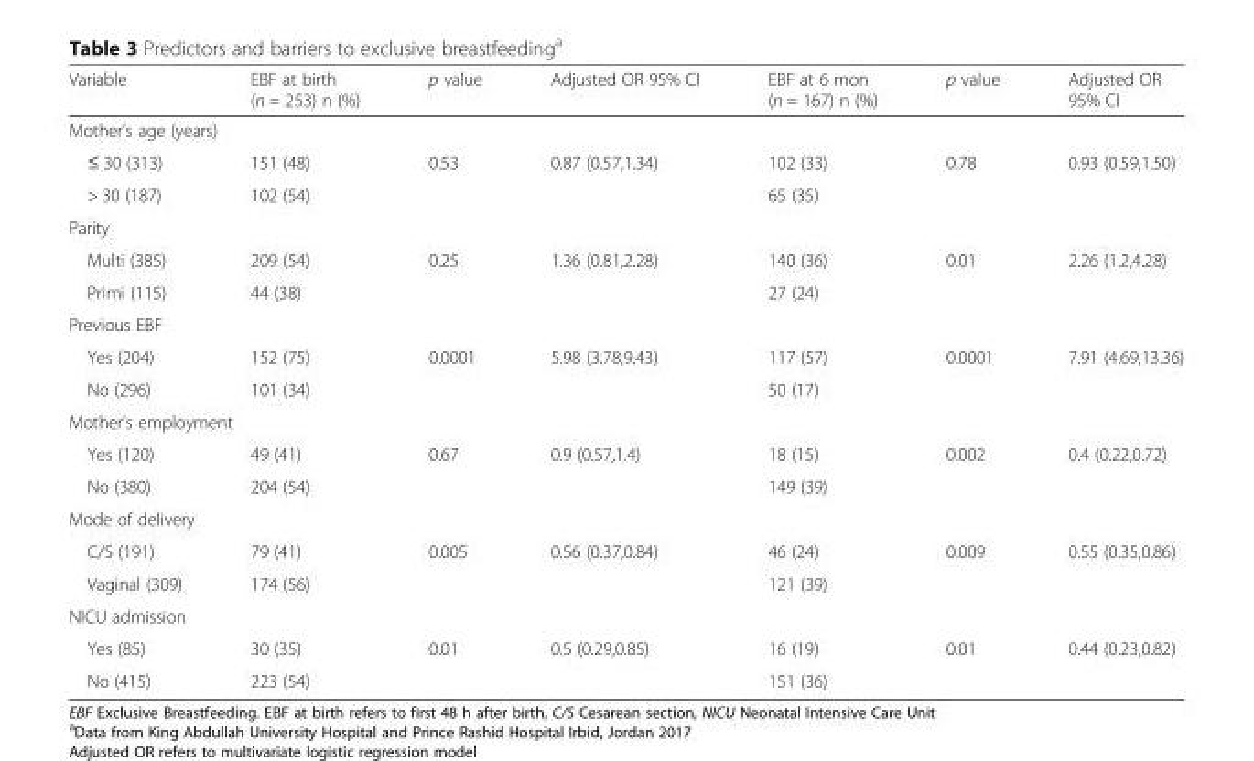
<table><thead><tr><td>Variable</td><td>EBF at birth (n = 253) n (%)</td><td>p value</td><td>Adjusted OR 95% CI</td><td>EBF at 6 mon (n = 167) n (%)</td><td>p value</td><td>Adjusted OR 95% CI</td></tr></thead><tbody><tr><td colspan="7">Mother’s age (years)</td></tr><tr><td>≤ 30 (313)</td><td>151 (48)</td><td rowspan="2">0.53</td><td rowspan="2">0.87 (0.57,1.34)</td><td>102 (33)</td><td rowspan="2">0.78</td><td rowspan="2">0.93 (0.59,1.50)</td></tr><tr><td>&gt; 30 (187)</td><td>102 (54)</td><td>65 (35)</td></tr><tr><td colspan="7">Parity</td></tr><tr><td>Multi (385)</td><td>209 (54)</td><td rowspan="2">0.25</td><td rowspan="2">1.36 (0.81,2.28)</td><td>140 (36)</td><td rowspan="2">0.01</td><td rowspan="2">2.26 (1.2,4.28)</td></tr><tr><td>Primi (115)</td><td>44 (38)</td><td>27 (24)</td></tr><tr><td colspan="7">Previous EBF</td></tr><tr><td>Yes (204)</td><td>152 (75)</td><td rowspan="2">0.0001</td><td rowspan="2">5.98 (3.78,9.43)</td><td>117 (57)</td><td rowspan="2">0.0001</td><td rowspan="2">7.91 (4.69,13.36)</td></tr><tr><td>No (296)</td><td>101 (34)</td><td>50 (17)</td></tr><tr><td colspan="7">Mother’s employment</td></tr><tr><td>Yes (120)</td><td>49 (41)</td><td rowspan="2">0.67</td><td rowspan="2">0.9 (0.57,1.4)</td><td>18 (15)</td><td rowspan="2">0.002</td><td rowspan="2">0.4 (0.22,0.72)</td></tr><tr><td>No (380)</td><td>204 (54)</td><td>149 (39)</td></tr><tr><td colspan="7">Mode of delivery</td></tr><tr><td>C/S (191)</td><td>79 (41)</td><td rowspan="2">0.005</td><td rowspan="2">0.56 (0.37,0.84)</td><td>46 (24)</td><td rowspan="2">0.009</td><td rowspan="2">0.55 (0.35,0.86)</td></tr><tr><td>Vaginal (309)</td><td>174 (56)</td><td>121 (39)</td></tr><tr><td colspan="7">NICU admission</td></tr><tr><td>Yes (85)</td><td>30 (35)</td><td>0.01</td><td rowspan="2">0.5 (0.29,0.85)</td><td>16 (19)</td><td rowspan="2">0.01</td><td rowspan="2">0.44 (0.23,0.82)</td></tr><tr><td>No (415)</td><td>223 (54)</td><td></td><td>151 (36)</td></tr></tbody></table>